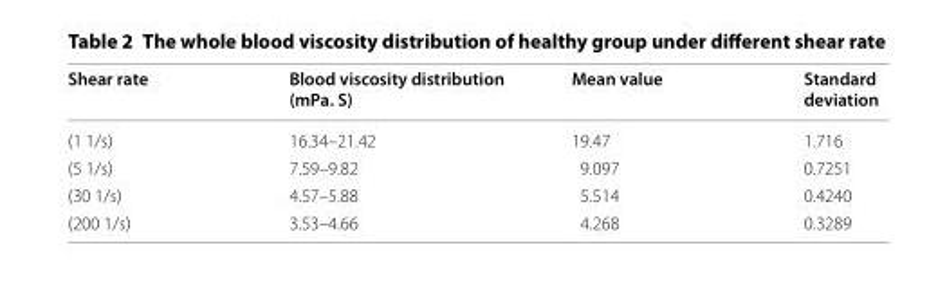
<table><thead><tr><td>Shear rate</td><td>Blood viscosity distribution (mPa. S)</td><td>Mean value</td><td>Standard deviation</td></tr></thead><tbody><tr><td>(1 1/s)</td><td>16.34–21.42</td><td>19.47</td><td>1.716</td></tr><tr><td>(5 1/s)</td><td>7.59–9.82</td><td>9.097</td><td>0.7251</td></tr><tr><td>(30 1/s)</td><td>4.57–5.88</td><td>5.514</td><td>0.4240</td></tr><tr><td>(200 1/s)</td><td>3.53–4.66</td><td>4.268</td><td>0.3289</td></tr></tbody></table>